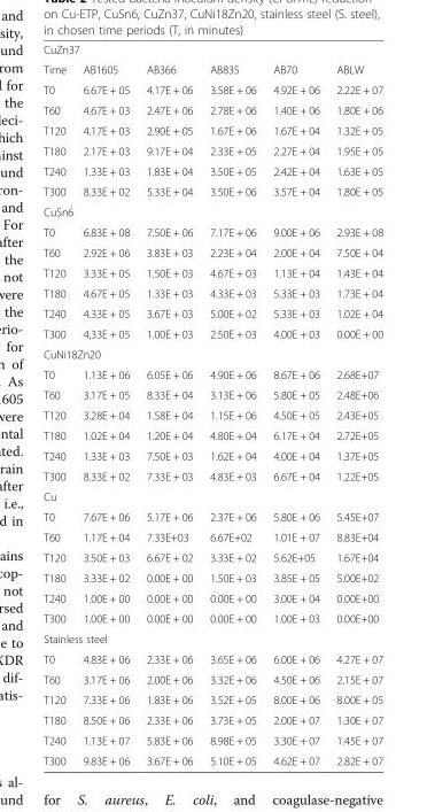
<table><tbody><tr><td colspan="6">CuZn37</td></tr><tr><td>Time</td><td>AB1605</td><td>AB366</td><td>AB835</td><td>AB70</td><td>ABLW</td></tr><tr><td>T0</td><td>6.67E + 05</td><td>4.17E + 06</td><td>3.58E + 06</td><td>4.92E + 06</td><td>2.22E + 07</td></tr><tr><td>T60</td><td>4.67E + 03</td><td>2.47E + 06</td><td>2.78E + 06</td><td>1.40E + 06</td><td>1.80E + 06</td></tr><tr><td>T120</td><td>4.17E + 03</td><td>2.90E + 05</td><td>1.67E + 06</td><td>1.67E + 04</td><td>1.32E + 05</td></tr><tr><td>T180</td><td>2.17E + 03</td><td>9.17E + 04</td><td>2.33E + 05</td><td>2.27E + 04</td><td>1.95E + 05</td></tr><tr><td>T240</td><td>1.33E + 03</td><td>1.83E + 04</td><td>3.50E + 05</td><td>2.42E + 04</td><td>1.63E + 05</td></tr><tr><td>T300</td><td>8.33E + 02</td><td>5.33E + 04</td><td>3.50E + 06</td><td>3.57E + 04</td><td>1.80E + 05</td></tr><tr><td colspan="6">CuSn6</td></tr><tr><td>T0</td><td>6.83E + 08</td><td>7.50E + 06</td><td>7.17E + 06</td><td>9.00E + 06</td><td>2.93E + 08</td></tr><tr><td>T60</td><td>2.92E + 06</td><td>3.83E + 03</td><td>2.23E + 04</td><td>2.00E + 04</td><td>7.50E + 04</td></tr><tr><td>T120</td><td>3.33E + 05</td><td>1.50E + 03</td><td>4.67E + 03</td><td>1.13E + 04</td><td>1.43E + 04</td></tr><tr><td>T180</td><td>4.67E + 05</td><td>1.33E + 03</td><td>4.33E + 03</td><td>5.33E + 03</td><td>1.73E + 04</td></tr><tr><td>T240</td><td>4.33E + 05</td><td>3.67E + 03</td><td>5.00E + 02</td><td>5.33E + 03</td><td>1.02E + 04</td></tr><tr><td>T300</td><td>4,33E + 05</td><td>1.00E + 03</td><td>2.50E + 03</td><td>4.00E + 03</td><td>0.00E + 00</td></tr><tr><td colspan="6">CuNi18Zn20</td></tr><tr><td>T0</td><td>1.13E + 06</td><td>6.05E + 06</td><td>4.90E + 06</td><td>8.67E + 06</td><td>2.68E+07</td></tr><tr><td>T60</td><td>3.17E + 05</td><td>8.33E + 04</td><td>3.13E + 06</td><td>5.80E + 05</td><td>2.48E+06</td></tr><tr><td>T120</td><td>3.28E + 04</td><td>1.58E + 04</td><td>1.15E + 06</td><td>4.50E + 05</td><td>2.43E+05</td></tr><tr><td>T180</td><td>1.02E + 04</td><td>1.20E + 04</td><td>4.80E + 04</td><td>6.17E + 04</td><td>2.72E+05</td></tr><tr><td>T240</td><td>1.33E + 03</td><td>7.50E + 03</td><td>1.62E + 04</td><td>4.00E + 04</td><td>1.37E+05</td></tr><tr><td>T300</td><td>8.33E + 02</td><td>7.33E + 03</td><td>4.83E + 03</td><td>6.67E + 04</td><td>1.22E+05</td></tr><tr><td colspan="6">Cu</td></tr><tr><td>T0</td><td>7.67E + 06</td><td>5.17E + 06</td><td>2.37E + 06</td><td>5.80E + 06</td><td>5.45E+07</td></tr><tr><td>T60</td><td>1.17E + 04</td><td>7.33E+03</td><td>6.67E+02</td><td>1.01E + 07</td><td>8.83E+04</td></tr><tr><td>T120</td><td>3.50E + 03</td><td>6.67E + 02</td><td>3.33E + 02</td><td>5.62E+05</td><td>1.67E+04</td></tr><tr><td>T180</td><td>3.33E + 02</td><td>0.00E + 00</td><td>1.50E + 03</td><td>3.85E + 05</td><td>5.00E+02</td></tr><tr><td>T240</td><td>1.00E + 00</td><td>0.00E + 00</td><td>0.00E + 00</td><td>3.00E + 04</td><td>0.00E+00</td></tr><tr><td>T300</td><td>1.00E + 00</td><td>0.00E + 00</td><td>0.00E + 00</td><td>1.00E + 03</td><td>0.00E+00</td></tr><tr><td colspan="6">Stainless steel</td></tr><tr><td>T0</td><td>4.83E + 06</td><td>2.33E + 06</td><td>3.65E + 06</td><td>6.00E + 06</td><td>4.27E + 07</td></tr><tr><td>T60</td><td>3.17E + 06</td><td>2.00E + 06</td><td>3.32E + 06</td><td>4.50E + 06</td><td>2.15E + 07</td></tr><tr><td>T120</td><td>7.33E + 06</td><td>1.83E + 06</td><td>3.52E + 05</td><td>8.00E + 06</td><td>8.00E + 05</td></tr><tr><td>T180</td><td>8.50E + 06</td><td>2.33E + 06</td><td>3.73E + 05</td><td>2.00E + 07</td><td>1.30E + 07</td></tr><tr><td>T240</td><td>1.13E + 07</td><td>5.83E + 06</td><td>8.98E + 05</td><td>3.30E + 07</td><td>1.45E + 07</td></tr><tr><td>T300</td><td>9.83E + 06</td><td>3.67E + 06</td><td>5.10E + 05</td><td>4.62E + 07</td><td>2.82E + 07</td></tr></tbody></table>